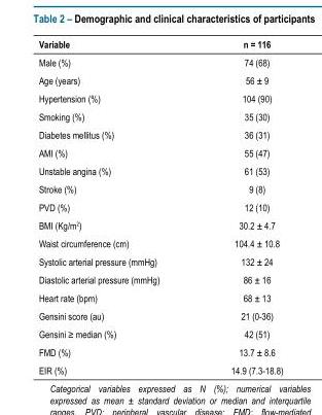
<table><thead><tr><td>Variable</td><td>n = 116</td></tr></thead><tbody><tr><td>Male (%)</td><td>74 (68)</td></tr><tr><td>Age (years)</td><td>56 ± 9</td></tr><tr><td>Hypertension (%)</td><td>104 (90)</td></tr><tr><td>Smoking (%)</td><td>35 (30)</td></tr><tr><td>Diabetes mellitus (%)</td><td>36 (31)</td></tr><tr><td>AMI (%)</td><td>55 (47)</td></tr><tr><td>Unstable angina (%)</td><td>61 (53)</td></tr><tr><td>Stroke (%)</td><td>9 (8)</td></tr><tr><td>PVD (%)</td><td>12 (10)</td></tr><tr><td>BMI (Kg/m<sup>2</sup>)</td><td>30.2 ± 4.7</td></tr><tr><td>Waist circumference (cm)</td><td>104.4 ± 10.8</td></tr><tr><td>Systolic arterial pressure (mmHg)</td><td>132 ± 24</td></tr><tr><td>Diastolic arterial pressure (mmHg)</td><td>86 ± 16</td></tr><tr><td>Heart rate (bpm)</td><td>68 ± 13</td></tr><tr><td>Gensini score (au)</td><td>21 (0-36)</td></tr><tr><td>Gensini ≥ median (%)</td><td>42 (51)</td></tr><tr><td>FMD (%)</td><td>13.7 ± 8.6</td></tr><tr><td>EIR (%)</td><td>14.9 (7.3-18.8)</td></tr></tbody></table>